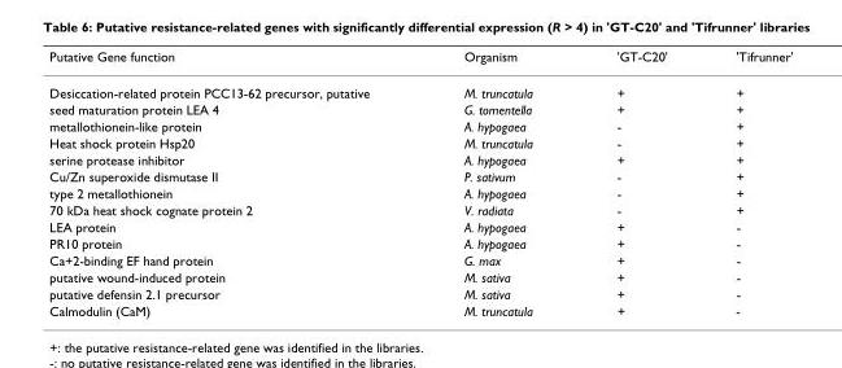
<table><thead><tr><td>Putative Gene function</td><td>Organism</td><td>&#x27;GT-C20&#x27;</td><td>&#x27;Tifrunner&#x27;</td></tr></thead><tbody><tr><td>Desiccation-related protein PCC13-62 precursor, putative</td><td>M. truncatula</td><td>+</td><td>+</td></tr><tr><td>seed maturation protein LEA 4</td><td>G. tomentella</td><td>+</td><td>+</td></tr><tr><td>metallothionein-like protein</td><td>A. hypogaea</td><td>-</td><td>+</td></tr><tr><td>Heat shock protein Hsp20</td><td>M. truncatula</td><td>-</td><td>+</td></tr><tr><td>serine protease inhibitor</td><td>A. hypogaea</td><td>+</td><td>+</td></tr><tr><td>Cu/Zn superoxide dismutase II</td><td>P. sativum</td><td>-</td><td>+</td></tr><tr><td>type 2 metallothionein</td><td>A. hypogaea</td><td>-</td><td>+</td></tr><tr><td>70 kDa heat shock cognate protein 2</td><td>V. radiata</td><td>-</td><td>+</td></tr><tr><td>LEA protein</td><td>A. hypogaea</td><td>+</td><td>-</td></tr><tr><td>PR10 protein</td><td>A. hypogaea</td><td>+</td><td>-</td></tr><tr><td>Ca+2-binding EF hand protein</td><td>G. max</td><td>+</td><td>-</td></tr><tr><td>putative wound-induced protein</td><td>M. sativa</td><td>+</td><td>-</td></tr><tr><td>putative defensin 2.1 precursor</td><td>M. sativa</td><td>+</td><td>-</td></tr><tr><td>Calmodulin (CaM)</td><td>M. truncatula</td><td>+</td><td>-</td></tr></tbody></table>